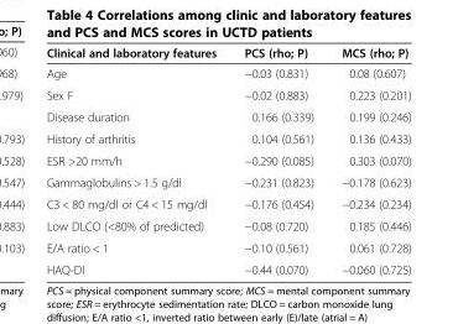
<table><thead><tr><td>Clinical and laboratory features</td><td>PCS (rho; P)</td><td>MCS (rho; P)</td></tr></thead><tbody><tr><td>Age</td><td>−0.03 (0.831)</td><td>0.08 (0.607)</td></tr><tr><td>Sex F</td><td>−0.02 (0.883)</td><td>0.223 (0.201)</td></tr><tr><td>Disease duration</td><td>0.166 (0.339)</td><td>0.199 (0.246)</td></tr><tr><td>History of arthritis</td><td>0.104 (0.561)</td><td>0.136 (0.433)</td></tr><tr><td>ESR &gt;20 mm/h</td><td>−0.290 (0.085)</td><td>0.303 (0.070)</td></tr><tr><td>Gammaglobulins &gt; 1.5 g/dl</td><td>−0.231 (0.823)</td><td>−0.178 (0.623)</td></tr><tr><td>C3 &lt; 80 mg/dl or C4 &lt; 15 mg/dl</td><td>−0.176 (0.454)</td><td>−0.234 (0.234)</td></tr><tr><td>Low DLCO (&lt;80% of predicted)</td><td>−0.08 (0.720)</td><td>0.185 (0.446)</td></tr><tr><td>E/A ratio &lt; 1</td><td>−0.10 (0.561)</td><td>0.061 (0.728)</td></tr><tr><td>HAQ-DI</td><td>−0.44 (0.070)</td><td>−0.060 (0.725)</td></tr></tbody></table>